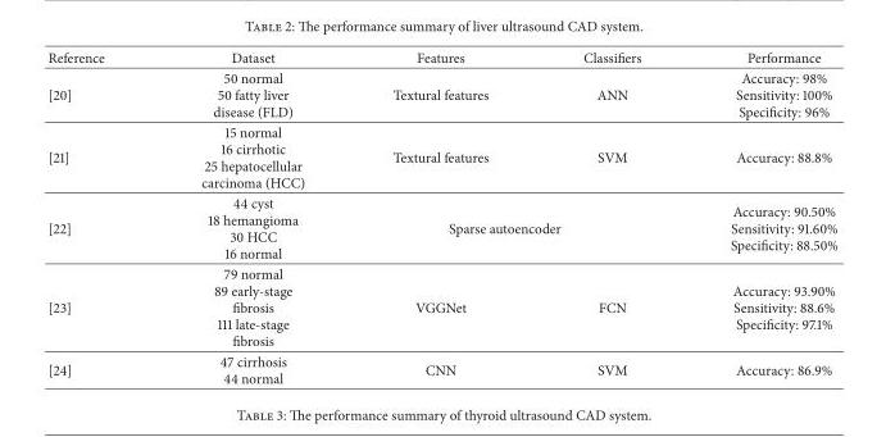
<table><thead><tr><td>Reference</td><td>Dataset</td><td>Features</td><td>Classifiers</td><td>Performance</td></tr></thead><tbody><tr><td>[20]</td><td>50 normal 50 fatty liver disease (FLD)</td><td>Textural features</td><td>ANN</td><td>Accuracy: 98% Sensitivity: 100% Specificity: 96%</td></tr><tr><td>[21]</td><td>15 normal 16 cirrhotic 25 hepatocellular carcinoma (HCC)</td><td>Textural features</td><td>SVM</td><td>Accuracy: 88.8%</td></tr><tr><td>[22]</td><td>44 cyst 18 hemangioma 30 HCC 16 normal</td><td colspan="2">Sparse autoencoder</td><td>Accuracy: 90.50% Sensitivity: 91.60% Specificity: 88.50%</td></tr><tr><td>[23]</td><td>79 normal 89 early-stage fibrosis 111 late-stage fibrosis</td><td>VGGNet</td><td>FCN</td><td>Accuracy: 93.90% Sensitivity: 88.6% Specificity: 97.1%</td></tr><tr><td>[24]</td><td>47 cirrhosis 44 normal</td><td>CNN</td><td>SVM</td><td>Accuracy: 86.9%</td></tr></tbody></table>